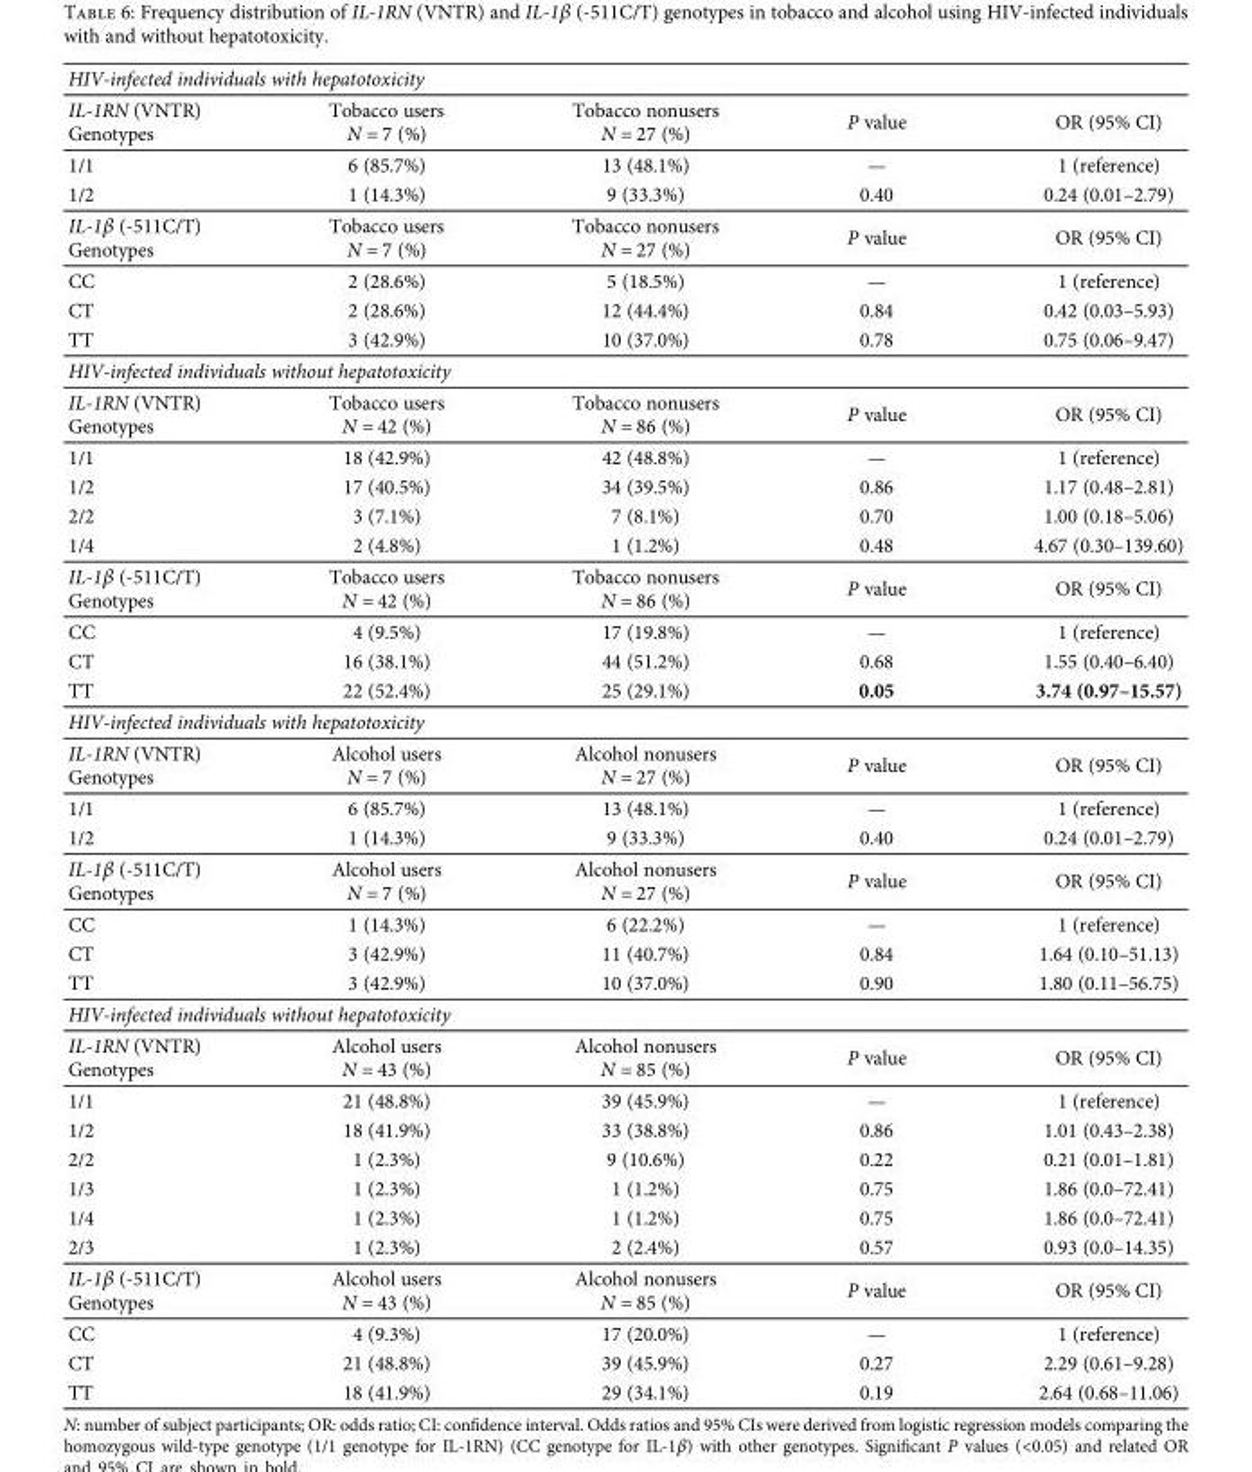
<table><tbody><tr><td colspan="5">HIV-infected individuals with hepatotoxicity</td></tr><tr><td>IL-1RN (VNTR) Genotypes</td><td>Tobacco users N = 7 (%)</td><td>Tobacco nonusers N = 27 (%)</td><td>P value</td><td>OR (95% CI)</td></tr><tr><td>1/1</td><td>6 (85.7%)</td><td>13 (48.1%)</td><td>—</td><td>1 (reference)</td></tr><tr><td>1/2</td><td>1 (14.3%)</td><td>9 (33.3%)</td><td>0.40</td><td>0.24 (0.01–2.79)</td></tr><tr><td>IL-1β (-511C/T) Genotypes</td><td>Tobacco users N = 7 (%)</td><td>Tobacco nonusers N = 27 (%)</td><td>P value</td><td>OR (95% CI)</td></tr><tr><td>CC</td><td>2 (28.6%)</td><td>5 (18.5%)</td><td>—</td><td>1 (reference)</td></tr><tr><td>CT</td><td>2 (28.6%)</td><td>12 (44.4%)</td><td>0.84</td><td>0.42 (0.03–5.93)</td></tr><tr><td>TT</td><td>3 (42.9%)</td><td>10 (37.0%)</td><td>0.78</td><td>0.75 (0.06–9.47)</td></tr><tr><td colspan="5">HIV-infected individuals without hepatotoxicity</td></tr><tr><td>IL-1RN (VNTR) Genotypes</td><td>Tobacco users N = 42 (%)</td><td>Tobacco nonusers N = 86 (%)</td><td>P value</td><td>OR (95% CI)</td></tr><tr><td>1/1</td><td>18 (42.9%)</td><td>42 (48.8%)</td><td>—</td><td>1 (reference)</td></tr><tr><td>1/2</td><td>17 (40.5%)</td><td>34 (39.5%)</td><td>0.86</td><td>1.17 (0.48–2.81)</td></tr><tr><td>2/2</td><td>3 (7.1%)</td><td>7 (8.1%)</td><td>0.70</td><td>1.00 (0.18–5.06)</td></tr><tr><td>1/4</td><td>2 (4.8%)</td><td>1 (1.2%)</td><td>0.48</td><td>4.67 (0.30–139.60)</td></tr><tr><td>IL-1β (-511C/T) Genotypes</td><td>Tobacco users N = 42 (%)</td><td>Tobacco nonusers N = 86 (%)</td><td>P value</td><td>OR (95% CI)</td></tr><tr><td>CC</td><td>4 (9.5%)</td><td>17 (19.8%)</td><td>—</td><td>1 (reference)</td></tr><tr><td>CT</td><td>16 (38.1%)</td><td>44 (51.2%)</td><td>0.68</td><td>1.55 (0.40–6.40)</td></tr><tr><td>TT</td><td>22 (52.4%)</td><td>25 (29.1%)</td><td>0.05</td><td>3.74 (0.97–15.57)</td></tr><tr><td colspan="5">HIV-infected individuals with hepatotoxicity</td></tr><tr><td>IL-1RN (VNTR) Genotypes</td><td>Alcohol users N = 7 (%)</td><td>Alcohol nonusers N = 27 (%)</td><td>P value</td><td>OR (95% CI)</td></tr><tr><td>1/1</td><td>6 (85.7%)</td><td>13 (48.1%)</td><td>—</td><td>1 (reference)</td></tr><tr><td>1/2</td><td>1 (14.3%)</td><td>9 (33.3%)</td><td>0.40</td><td>0.24 (0.01–2.79)</td></tr><tr><td>IL-1β (-511C/T) Genotypes</td><td>Alcohol users N = 7 (%)</td><td>Alcohol nonusers N = 27 (%)</td><td>P value</td><td>OR (95% CI)</td></tr><tr><td>CC</td><td>1 (14.3%)</td><td>6 (22.2%)</td><td>—</td><td>1 (reference)</td></tr><tr><td>CT</td><td>3 (42.9%)</td><td>11 (40.7%)</td><td>0.84</td><td>1.64 (0.10–51.13)</td></tr><tr><td>TT</td><td>3 (42.9%)</td><td>10 (37.0%)</td><td>0.90</td><td>1.80 (0.11–56.75)</td></tr><tr><td colspan="5">HIV-infected individuals without hepatotoxicity</td></tr><tr><td>IL-1RN (VNTR) Genotypes</td><td>Alcohol users N = 43 (%)</td><td>Alcohol nonusers N = 85 (%)</td><td>P value</td><td>OR (95% CI)</td></tr><tr><td>1/1</td><td>21 (48.8%)</td><td>39 (45.9%)</td><td>—</td><td>1 (reference)</td></tr><tr><td>1/2</td><td>18 (41.9%)</td><td>33 (38.8%)</td><td>0.86</td><td>1.01 (0.43–2.38)</td></tr><tr><td>2/2</td><td>1 (2.3%)</td><td>9 (10.6%)</td><td>0.22</td><td>0.21 (0.01–1.81)</td></tr><tr><td>1/3</td><td>1 (2.3%)</td><td>1 (1.2%)</td><td>0.75</td><td>1.86 (0.0–72.41)</td></tr><tr><td>1/4</td><td>1 (2.3%)</td><td>1 (1.2%)</td><td>0.75</td><td>1.86 (0.0–72.41)</td></tr><tr><td>2/3</td><td>1 (2.3%)</td><td>2 (2.4%)</td><td>0.57</td><td>0.93 (0.0–14.35)</td></tr><tr><td>IL-1β (-511C/T) Genotypes</td><td>Alcohol users N = 43 (%)</td><td>Alcohol nonusers N = 85 (%)</td><td>P value</td><td>OR (95% CI)</td></tr><tr><td>CC</td><td>4 (9.3%)</td><td>17 (20.0%)</td><td>—</td><td>1 (reference)</td></tr><tr><td>CT</td><td>21 (48.8%)</td><td>39 (45.9%)</td><td>0.27</td><td>2.29 (0.61–9.28)</td></tr><tr><td>TT</td><td>18 (41.9%)</td><td>29 (34.1%)</td><td>0.19</td><td>2.64 (0.68–11.06)</td></tr></tbody></table>